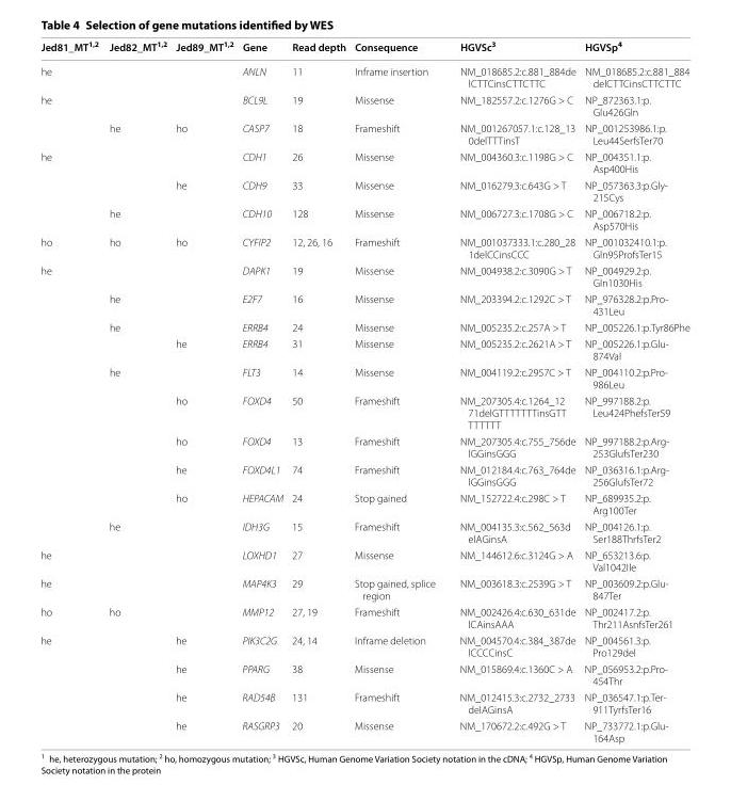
<table><thead><tr><td>Jed81_MT<sup>1,2</sup></td><td>Jed82_MT<sup>1,2</sup></td><td>Jed89_MT<sup>1,2</sup></td><td>Gene</td><td>Read depth</td><td>Consequence</td><td>HGVSc<sup>3</sup></td><td>HGVSp<sup>4</sup></td></tr></thead><tbody><tr><td>he</td><td></td><td></td><td>ANLN</td><td>11</td><td>Inframe insertion</td><td>NM_018685.2:c.881_884de lCTTCinsCTTCTTC</td><td>NM_018685.2:c.881_884 delCTTCinsCTTCTTC</td></tr><tr><td rowspan="2">he</td><td></td><td></td><td>BCL9L</td><td>19</td><td>Missense</td><td>NM_182557.2:c.1276G &gt; C</td><td>NP_872363.1:p. Glu426Gln</td></tr><tr><td>he</td><td>ho</td><td>CASP7</td><td>18</td><td>Frameshift</td><td>NM_001267057.1:c.128_13 0delTTTinsT</td><td>NP_001253986.1:p. Leu44SerfsTer70</td></tr><tr><td rowspan="3">he</td><td></td><td></td><td>CDH1</td><td>26</td><td>Missense</td><td>NM_004360.3:c.1198G &gt; C</td><td>NP_004351.1:p. Asp400His</td></tr><tr><td></td><td>he</td><td>CDH9</td><td>33</td><td>Missense</td><td>NM_016279.3:c.643G &gt; T</td><td>NP_057363.3:p.Gly‑ 215Cys</td></tr><tr><td>he</td><td></td><td>CDH10</td><td>128</td><td>Missense</td><td>NM_006727.3:c.1708G &gt; C</td><td>NP_006718.2:p. Asp570His</td></tr><tr><td>ho</td><td>ho</td><td>ho</td><td>CYFIP2</td><td>12, 26, 16</td><td>Frameshift</td><td>NM_001037333.1:c.280_28 1delCCinsCCC</td><td>NP_001032410.1:p. Gln95ProfsTer15</td></tr><tr><td rowspan="10">he</td><td></td><td></td><td>DAPK1</td><td>19</td><td>Missense</td><td>NM_004938.2:c.3090G &gt; T</td><td>NP_004929.2:p. Gln1030His</td></tr><tr><td>he</td><td></td><td>E2F7</td><td>16</td><td>Missense</td><td>NM_203394.2:c.1292C &gt; T</td><td>NP_976328.2:p.Pro‑ 431Leu</td></tr><tr><td>he</td><td></td><td>ERRB4</td><td>24</td><td>Missense</td><td>NM_005235.2:c.257A &gt; T</td><td>NP_005226.1:p.Tyr86Phe</td></tr><tr><td></td><td>he</td><td>ERRB4</td><td>31</td><td>Missense</td><td>NM_005235.2:c.2621A &gt; T</td><td>NP_005226.1:p.Glu‑ 874Val</td></tr><tr><td>he</td><td></td><td>FLT3</td><td>14</td><td>Missense</td><td>NM_004119.2:c.2957C &gt; T</td><td>NP_004110.2:p.Pro‑ 986Leu</td></tr><tr><td></td><td>ho</td><td>FOXD4</td><td>50</td><td>Frameshift</td><td>NM_207305.4:c.1264_12 71delGTTTTTTTinsGTT TTTTTT</td><td>NP_997188.2:p. Leu424PhefsTer59</td></tr><tr><td></td><td>ho</td><td>FOXD4</td><td>13</td><td>Frameshift</td><td>NM_207305.4:c.755_756de lGGinsGGG</td><td>NP_997188.2:p.Arg‑ 253GlufsTer230</td></tr><tr><td></td><td>he</td><td>FOXD4L1</td><td>74</td><td>Frameshift</td><td>NM_012184.4:c.763_764de lGGinsGGG</td><td>NP_036316.1:p.Arg‑ 256GlufsTer72</td></tr><tr><td></td><td>ho</td><td>HEPACAM</td><td>24</td><td>Stop gained</td><td>NM_152722.4:c.298C &gt; T</td><td>NP_689935.2:p. Arg100Ter</td></tr><tr><td>he</td><td></td><td>IDH3G</td><td>15</td><td>Frameshift</td><td>NM_004135.3:c.562_563d elAGinsA</td><td>NP_004126.1:p. Ser188ThrfsTer2</td></tr><tr><td>he</td><td></td><td></td><td>LOXHD1</td><td>27</td><td>Missense</td><td>NM_144612.6:c.3124G &gt; A</td><td>NP_653213.6:p. Val1042Ile</td></tr><tr><td>he</td><td></td><td></td><td>MAP4K3</td><td>29</td><td>Stop gained, splice region</td><td>NM_003618.3:c.2539G &gt; T</td><td>NP_003609.2:p.Glu‑ 847Ter</td></tr><tr><td>ho</td><td>ho</td><td></td><td>MMP12</td><td>27, 19</td><td>Frameshift</td><td>NM_002426.4:c.630_631de lCAinsAAA</td><td>NP_002417.2:p. Thr211AsnfsTer261</td></tr><tr><td rowspan="4">he</td><td></td><td>he</td><td>PIK3C2G</td><td>24, 14</td><td>Inframe deletion</td><td>NM_004570.4:c.384_387de lCCCCinsC</td><td>NP_004561.3:p. Pro129del</td></tr><tr><td></td><td>he</td><td>PPARG</td><td>38</td><td>Missense</td><td>NM_015869.4:c.1360C &gt; A</td><td>NP_056953.2:p.Pro‑ 454Thr</td></tr><tr><td></td><td>he</td><td>RAD54B</td><td>131</td><td>Frameshift</td><td>NM_012415.3:c.2732_2733 delAGinsA</td><td>NP_036547.1:p.Ter‑ 911TyrfsTer16</td></tr><tr><td></td><td>he</td><td>RASGRP3</td><td>20</td><td>Missense</td><td>NM_170672.2:c.492G &gt; T</td><td>NP_733772.1:p.Glu‑ 164Asp</td></tr></tbody></table>